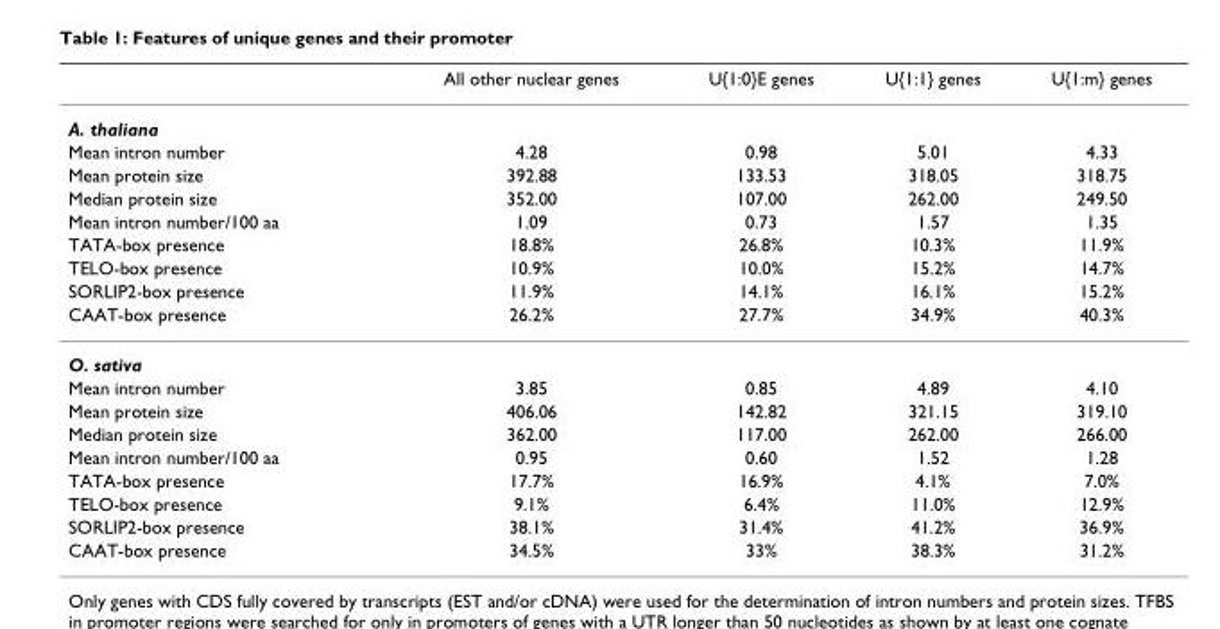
<table><thead><tr><td></td><td>All other nuclear genes</td><td>U{1:0}E genes</td><td>U{1:1} genes</td><td>U{1:m} genes</td></tr></thead><tbody><tr><td colspan="5">A. thaliana</td></tr><tr><td>Mean intron number</td><td>4.28</td><td>0.98</td><td>5.01</td><td>4.33</td></tr><tr><td>Mean protein size</td><td>392.88</td><td>133.53</td><td>318.05</td><td>318.75</td></tr><tr><td>Median protein size</td><td>352.00</td><td>107.00</td><td>262.00</td><td>249.50</td></tr><tr><td>Mean intron number/100 aa</td><td>1.09</td><td>0.73</td><td>1.57</td><td>1.35</td></tr><tr><td>TATA-box presence</td><td>18.8%</td><td>26.8%</td><td>10.3%</td><td>11.9%</td></tr><tr><td>TELO-box presence</td><td>10.9%</td><td>10.0%</td><td>15.2%</td><td>14.7%</td></tr><tr><td>SORLIP2-box presence</td><td>11.9%</td><td>14.1%</td><td>16.1%</td><td>15.2%</td></tr><tr><td>CAAT-box presence</td><td>26.2%</td><td>27.7%</td><td>34.9%</td><td>40.3%</td></tr><tr><td colspan="5">O. sativa</td></tr><tr><td>Mean intron number</td><td>3.85</td><td>0.85</td><td>4.89</td><td>4.10</td></tr><tr><td>Mean protein size</td><td>406.06</td><td>142.82</td><td>321.15</td><td>319.10</td></tr><tr><td>Median protein size</td><td>362.00</td><td>117.00</td><td>262.00</td><td>266.00</td></tr><tr><td>Mean intron number/100 aa</td><td>0.95</td><td>0.60</td><td>1.52</td><td>1.28</td></tr><tr><td>TATA-box presence</td><td>17.7%</td><td>16.9%</td><td>4.1%</td><td>7.0%</td></tr><tr><td>TELO-box presence</td><td>9.1%</td><td>6.4%</td><td>11.0%</td><td>12.9%</td></tr><tr><td>SORLIP2-box presence</td><td>38.1%</td><td>31.4%</td><td>41.2%</td><td>36.9%</td></tr><tr><td>CAAT-box presence</td><td>34.5%</td><td>33%</td><td>38.3%</td><td>31.2%</td></tr></tbody></table>